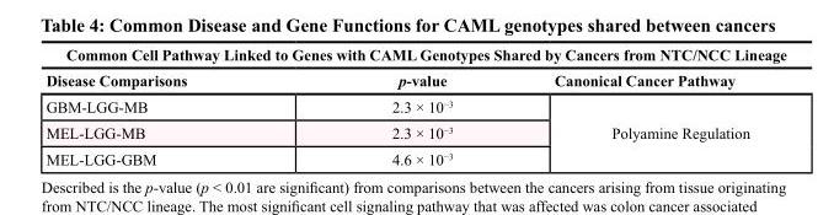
<table><thead><tr><td colspan="3">Common Cell Pathway Linked to Genes with CAML Genotypes Shared by Cancers from NTC/NCC Lineage</td></tr><tr><td>Disease Comparisons</td><td>p-value</td><td>Canonical Cancer Pathway</td></tr></thead><tbody><tr><td>GBM-LGG-MB</td><td>2.3 × 10<sup>−3</sup></td><td rowspan="3">Polyamine Regulation</td></tr><tr><td>MEL-LGG-MB</td><td>2.3 × 10<sup>−3</sup></td></tr><tr><td>MEL-LGG-GBM</td><td>4.6 × 10<sup>−3</sup></td></tr></tbody></table>